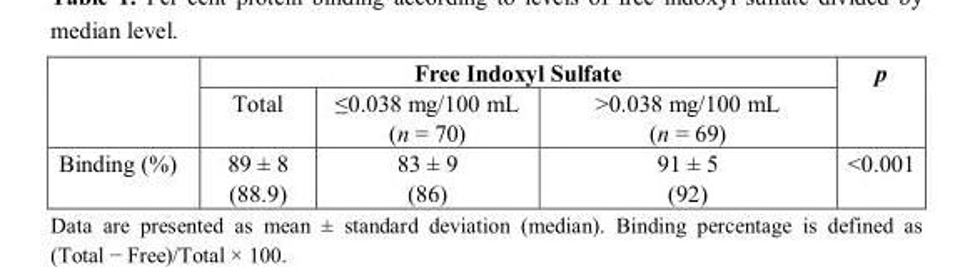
<table><thead><tr><td rowspan="2"></td><td colspan="3">Free Indoxyl Sulfate</td><td rowspan="2">p</td></tr><tr><td>Total</td><td>≤0.038 mg/100 mL (n = 70)</td><td>&gt;0.038 mg/100 mL (n = 69)</td></tr></thead><tbody><tr><td>Binding (%)</td><td>89 ± 8 (88.9)</td><td>83 ± 9 (86)</td><td>91 ± 5 (92)</td><td>&lt;0.001</td></tr></tbody></table>